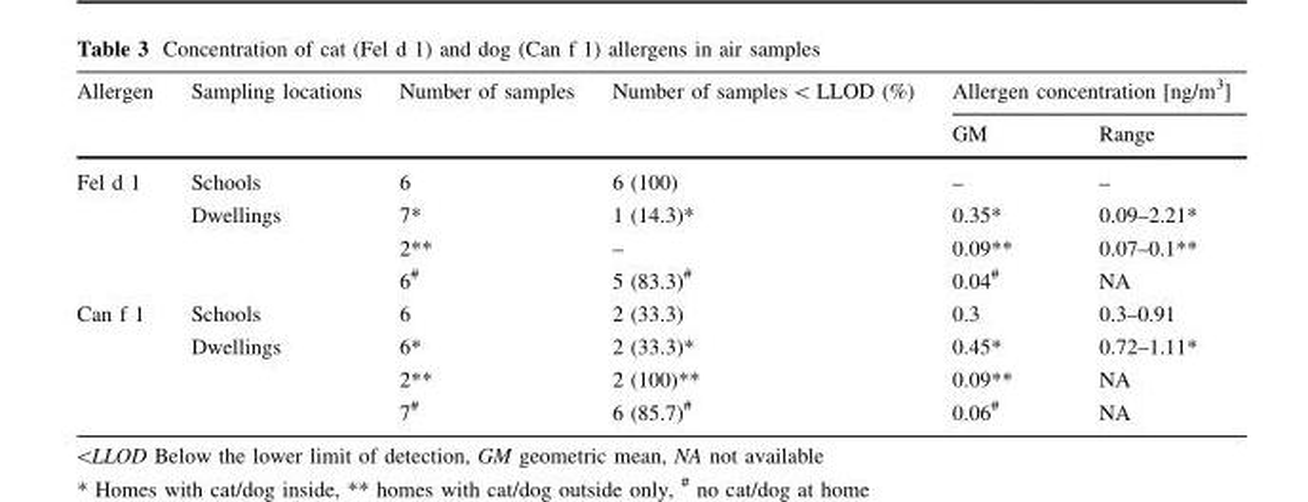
<table><thead><tr><td rowspan="2">Allergen</td><td rowspan="2">Sampling locations</td><td rowspan="2">Number of samples</td><td rowspan="2">Number of samples &lt; LLOD (%)</td><td colspan="2">Allergen concentration [ng/m<sup>3</sup>]</td></tr><tr><td>GM</td><td>Range</td></tr></thead><tbody><tr><td rowspan="4">Fel d 1</td><td>Schools</td><td>6</td><td>6 (100)</td><td>–</td><td>–</td></tr><tr><td rowspan="3">Dwellings</td><td>7*</td><td>1 (14.3)*</td><td>0.35*</td><td>0.09–2.21*</td></tr><tr><td>2**</td><td>–</td><td>0.09**</td><td>0.07–0.1**</td></tr><tr><td>6<sup>#</sup></td><td>5 (83.3)<sup>#</sup></td><td>0.04<sup>#</sup></td><td>NA</td></tr><tr><td rowspan="4">Can f 1</td><td>Schools</td><td>6</td><td>2 (33.3)</td><td>0.3</td><td>0.3–0.91</td></tr><tr><td rowspan="3">Dwellings</td><td>6*</td><td>2 (33.3)*</td><td>0.45*</td><td>0.72–1.11*</td></tr><tr><td>2**</td><td>2 (100)**</td><td>0.09**</td><td>NA</td></tr><tr><td>7<sup>#</sup></td><td>6 (85.7)<sup>#</sup></td><td>0.06<sup>#</sup></td><td>NA</td></tr></tbody></table>